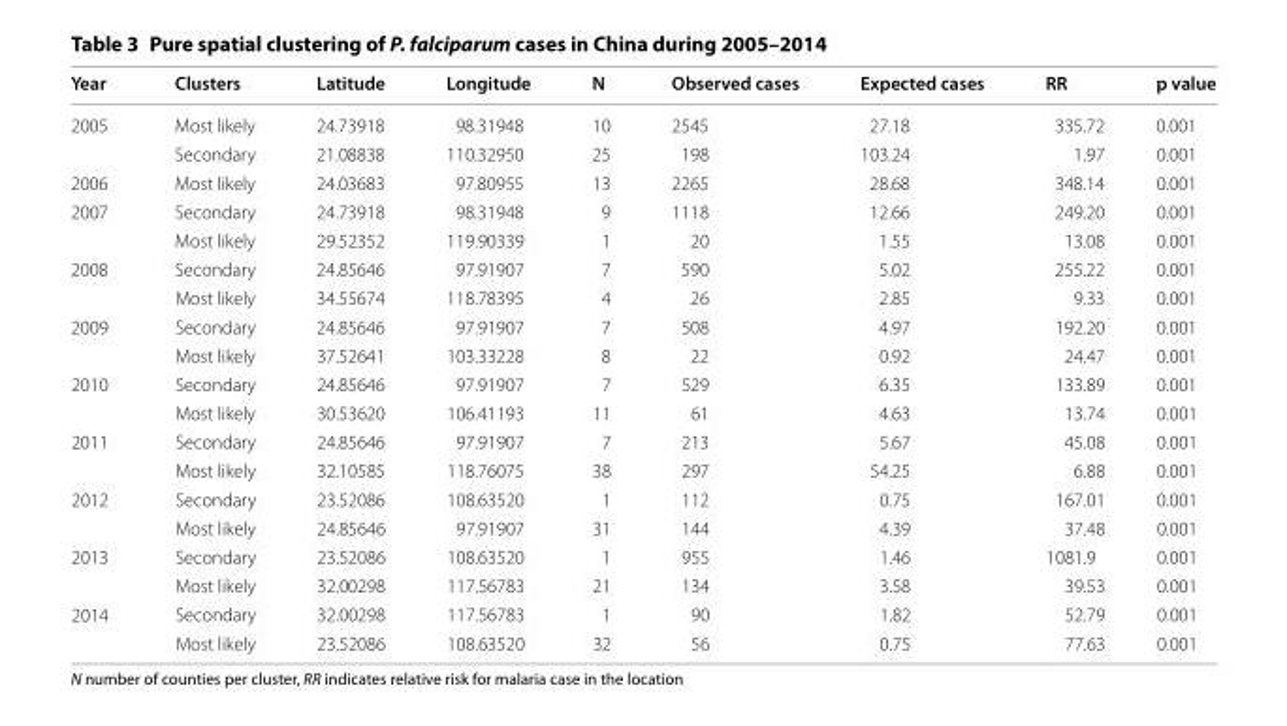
<table><thead><tr><td>Year</td><td>Clusters</td><td>Latitude</td><td>Longitude</td><td>N</td><td>Observed cases</td><td>Expected cases</td><td>RR</td><td>p value</td></tr></thead><tbody><tr><td rowspan="2">2005</td><td>Most likely</td><td>24.73918</td><td>98.31948</td><td>10</td><td>2545</td><td>27.18</td><td>335.72</td><td>0.001</td></tr><tr><td>Secondary</td><td>21.08838</td><td>110.32950</td><td>25</td><td>198</td><td>103.24</td><td>1.97</td><td>0.001</td></tr><tr><td>2006</td><td>Most likely</td><td>24.03683</td><td>97.80955</td><td>13</td><td>2265</td><td>28.68</td><td>348.14</td><td>0.001</td></tr><tr><td rowspan="2">2007</td><td>Secondary</td><td>24.73918</td><td>98.31948</td><td>9</td><td>1118</td><td>12.66</td><td>249.20</td><td>0.001</td></tr><tr><td>Most likely</td><td>29.52352</td><td>119.90339</td><td>1</td><td>20</td><td>1.55</td><td>13.08</td><td>0.001</td></tr><tr><td rowspan="2">2008</td><td>Secondary</td><td>24.85646</td><td>97.91907</td><td>7</td><td>590</td><td>5.02</td><td>255.22</td><td>0.001</td></tr><tr><td>Most likely</td><td>34.55674</td><td>118.78395</td><td>4</td><td>26</td><td>2.85</td><td>9.33</td><td>0.001</td></tr><tr><td rowspan="2">2009</td><td>Secondary</td><td>24.85646</td><td>97.91907</td><td>7</td><td>508</td><td>4.97</td><td>192.20</td><td>0.001</td></tr><tr><td>Most likely</td><td>37.52641</td><td>103.33228</td><td>8</td><td>22</td><td>0.92</td><td>24.47</td><td>0.001</td></tr><tr><td rowspan="2">2010</td><td>Secondary</td><td>24.85646</td><td>97.91907</td><td>7</td><td>529</td><td>6.35</td><td>133.89</td><td>0.001</td></tr><tr><td>Most likely</td><td>30.53620</td><td>106.41193</td><td>11</td><td>61</td><td>4.63</td><td>13.74</td><td>0.001</td></tr><tr><td rowspan="2">2011</td><td>Secondary</td><td>24.85646</td><td>97.91907</td><td>7</td><td>213</td><td>5.67</td><td>45.08</td><td>0.001</td></tr><tr><td>Most likely</td><td>32.10585</td><td>118.76075</td><td>38</td><td>297</td><td>54.25</td><td>6.88</td><td>0.001</td></tr><tr><td rowspan="2">2012</td><td>Secondary</td><td>23.52086</td><td>108.63520</td><td>1</td><td>112</td><td>0.75</td><td>167.01</td><td>0.001</td></tr><tr><td>Most likely</td><td>24.85646</td><td>97.91907</td><td>31</td><td>144</td><td>4.39</td><td>37.48</td><td>0.001</td></tr><tr><td rowspan="2">2013</td><td>Secondary</td><td>23.52086</td><td>108.63520</td><td>1</td><td>955</td><td>1.46</td><td>1081.9</td><td>0.001</td></tr><tr><td>Most likely</td><td>32.00298</td><td>117.56783</td><td>21</td><td>134</td><td>3.58</td><td>39.53</td><td>0.001</td></tr><tr><td rowspan="2">2014</td><td>Secondary</td><td>32.00298</td><td>117.56783</td><td>1</td><td>90</td><td>1.82</td><td>52.79</td><td>0.001</td></tr><tr><td>Most likely</td><td>23.52086</td><td>108.63520</td><td>32</td><td>56</td><td>0.75</td><td>77.63</td><td>0.001</td></tr></tbody></table>